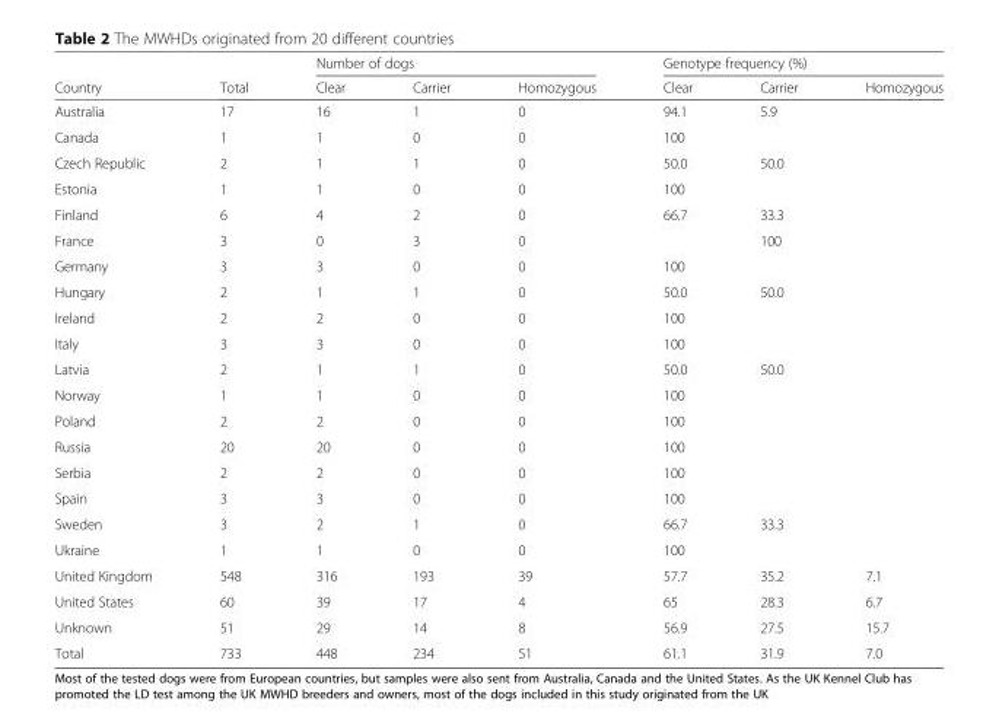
<table><thead><tr><td rowspan="2">Country</td><td rowspan="2">Total</td><td colspan="3">Number of dogs</td><td colspan="3">Genotype frequency (%)</td></tr><tr><td>Clear</td><td>Carrier</td><td>Homozygous</td><td>Clear</td><td>Carrier</td><td>Homozygous</td></tr></thead><tbody><tr><td>Australia</td><td>17</td><td>16</td><td>1</td><td>0</td><td>94.1</td><td>5.9</td><td></td></tr><tr><td>Canada</td><td>1</td><td>1</td><td>0</td><td>0</td><td>100</td><td></td><td></td></tr><tr><td>Czech Republic</td><td>2</td><td>1</td><td>1</td><td>0</td><td>50.0</td><td>50.0</td><td></td></tr><tr><td>Estonia</td><td>1</td><td>1</td><td>0</td><td>0</td><td>100</td><td></td><td></td></tr><tr><td>Finland</td><td>6</td><td>4</td><td>2</td><td>0</td><td>66.7</td><td>33.3</td><td></td></tr><tr><td>France</td><td>3</td><td>0</td><td>3</td><td>0</td><td></td><td>100</td><td></td></tr><tr><td>Germany</td><td>3</td><td>3</td><td>0</td><td>0</td><td>100</td><td></td><td></td></tr><tr><td>Hungary</td><td>2</td><td>1</td><td>1</td><td>0</td><td>50.0</td><td>50.0</td><td></td></tr><tr><td>Ireland</td><td>2</td><td>2</td><td>0</td><td>0</td><td>100</td><td></td><td></td></tr><tr><td>Italy</td><td>3</td><td>3</td><td>0</td><td>0</td><td>100</td><td></td><td></td></tr><tr><td>Latvia</td><td>2</td><td>1</td><td>1</td><td>0</td><td>50.0</td><td>50.0</td><td></td></tr><tr><td>Norway</td><td>1</td><td>1</td><td>0</td><td>0</td><td>100</td><td></td><td></td></tr><tr><td>Poland</td><td>2</td><td>2</td><td>0</td><td>0</td><td>100</td><td></td><td></td></tr><tr><td>Russia</td><td>20</td><td>20</td><td>0</td><td>0</td><td>100</td><td></td><td></td></tr><tr><td>Serbia</td><td>2</td><td>2</td><td>0</td><td>0</td><td>100</td><td></td><td></td></tr><tr><td>Spain</td><td>3</td><td>3</td><td>0</td><td>0</td><td>100</td><td></td><td></td></tr><tr><td>Sweden</td><td>3</td><td>2</td><td>1</td><td>0</td><td>66.7</td><td>33.3</td><td></td></tr><tr><td>Ukraine</td><td>1</td><td>1</td><td>0</td><td>0</td><td>100</td><td></td><td></td></tr><tr><td>United Kingdom</td><td>548</td><td>316</td><td>193</td><td>39</td><td>57.7</td><td>35.2</td><td>7.1</td></tr><tr><td>United States</td><td>60</td><td>39</td><td>17</td><td>4</td><td>65</td><td>28.3</td><td>6.7</td></tr><tr><td>Unknown</td><td>51</td><td>29</td><td>14</td><td>8</td><td>56.9</td><td>27.5</td><td>15.7</td></tr><tr><td>Total</td><td>733</td><td>448</td><td>234</td><td>51</td><td>61.1</td><td>31.9</td><td>7.0</td></tr></tbody></table>